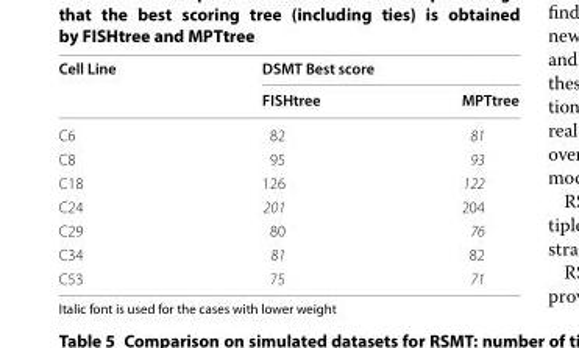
<table><thead><tr><td rowspan="2">Cell Line</td><td colspan="2">DSMT Best score</td></tr><tr><td>FISHtree</td><td>MPTtree</td></tr></thead><tbody><tr><td>C6</td><td>82</td><td>81</td></tr><tr><td>C8</td><td>95</td><td>93</td></tr><tr><td>C18</td><td>126</td><td>122</td></tr><tr><td>C24</td><td>201</td><td>204</td></tr><tr><td>C29</td><td>80</td><td>76</td></tr><tr><td>C34</td><td>81</td><td>82</td></tr><tr><td>C53</td><td>75</td><td>71</td></tr></tbody></table>